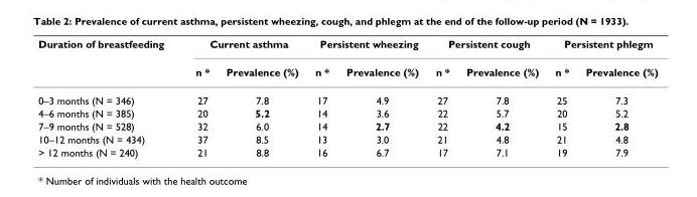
<table><thead><tr><td rowspan="2">Duration of breastfeeding</td><td colspan="2">Current asthma</td><td colspan="2">Persistent wheezing</td><td colspan="2">Persistent cough</td><td colspan="2">Persistent phlegm</td></tr><tr><td>n *</td><td>Prevalence (%)</td><td>n *</td><td>Prevalence (%)</td><td>n *</td><td>Prevalence (%)</td><td>n *</td><td>Prevalence (%)</td></tr></thead><tbody><tr><td>0–3 months (N = 346)</td><td>27</td><td>7.8</td><td>17</td><td>4.9</td><td>27</td><td>7.8</td><td>25</td><td>7.3</td></tr><tr><td>4–6 months (N = 385)</td><td>20</td><td>5.2</td><td>14</td><td>3.6</td><td>22</td><td>5.7</td><td>20</td><td>5.2</td></tr><tr><td>7–9 months (N = 528)</td><td>32</td><td>6.0</td><td>14</td><td>2.7</td><td>22</td><td>4.2</td><td>15</td><td>2.8</td></tr><tr><td>10–12 months (N = 434)</td><td>37</td><td>8.5</td><td>13</td><td>3.0</td><td>21</td><td>4.8</td><td>21</td><td>4.8</td></tr><tr><td>&gt; 12 months (N = 240)</td><td>21</td><td>8.8</td><td>16</td><td>6.7</td><td>17</td><td>7.1</td><td>19</td><td>7.9</td></tr></tbody></table>